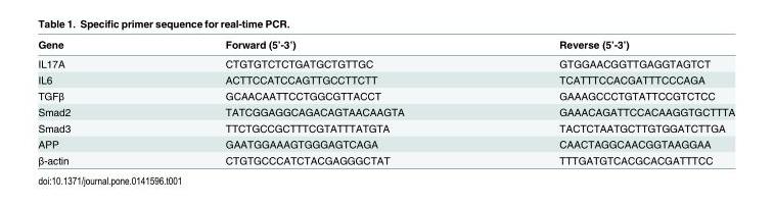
<table><thead><tr><td>Gene</td><td>Forward (5’-3’)</td><td>Reverse (5’-3’)</td></tr></thead><tbody><tr><td>IL17A</td><td>CTGTGTCTCTGATGCTGTTGC</td><td>GTGGAACGGTTGAGGTAGTCT</td></tr><tr><td>IL6</td><td>ACTTCCATCCAGTTGCCTTCTT</td><td>TCATTTCCACGATTTCCCAGA</td></tr><tr><td>TGFβ</td><td>GCAACAATTCCTGGCGTTACCT</td><td>GAAAGCCCTGTATTCCGTCTCC</td></tr><tr><td>Smad2</td><td>TATCGGAGGCAGACAGTAACAAGTA</td><td>GAAACAGATTCCACAAGGTGCTTTA</td></tr><tr><td>Smad3</td><td>TTCTGCCGCTTTCGTATTTATGTA</td><td>TACTCTAATGCTTGTGGATCTTGA</td></tr><tr><td>APP</td><td>GAATGGAAAGTGGGAGTCAGA</td><td>CAACTAGGCAACGGTAAGGAA</td></tr><tr><td>β-actin</td><td>CTGTGCCCATCTACGAGGGCTAT</td><td>TTTGATGTCACGCACGATTTCC</td></tr></tbody></table>